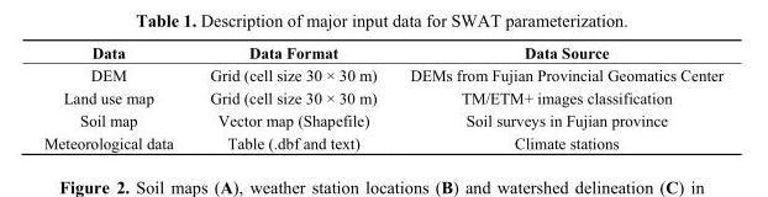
<table><thead><tr><td>Data</td><td>Data Format</td><td>Data Source</td></tr></thead><tbody><tr><td>DEM</td><td>Grid (cell size 30 × 30 m)</td><td>DEMs from Fujian Provincial Geomatics Center</td></tr><tr><td>Land use map</td><td>Grid (cell size 30 × 30 m)</td><td>TM/ETM+ images classification</td></tr><tr><td>Soil map</td><td>Vector map (Shapefile)</td><td>Soil surveys in Fujian province</td></tr><tr><td>Meteorological data</td><td>Table (.dbf and text)</td><td>Climate stations</td></tr></tbody></table>